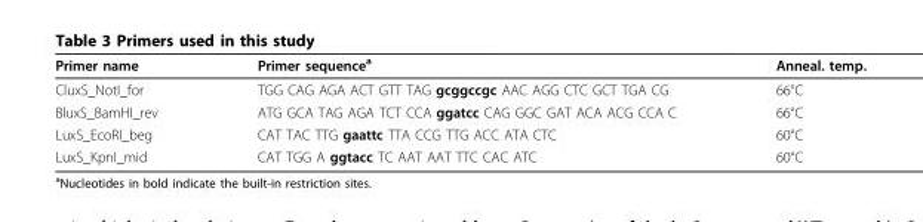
<table><thead><tr><td>Primer name</td><td>Primer sequence<sup>a</sup></td><td>Anneal. temp.</td></tr></thead><tbody><tr><td>CluxS_NotI_for</td><td>TGG CAG AGA ACT GTT TAG gcggccgc AAC AGG CTC GCT TGA CG</td><td>66°C</td></tr><tr><td>BluxS_BamHI_rev</td><td>ATG GCA TAG AGA TCT CCA ggatcc CAG GGC GAT ACA ACG CCA C</td><td>66°C</td></tr><tr><td>LuxS_EcoRI_beg</td><td>CAT TAC TTG gaattc TTA CCG TTG ACC ATA CTC</td><td>60°C</td></tr><tr><td>LuxS_KpnI_mid</td><td>CAT TGG A ggtacc TC AAT AAT TTC CAC ATC</td><td>60°C</td></tr></tbody></table>